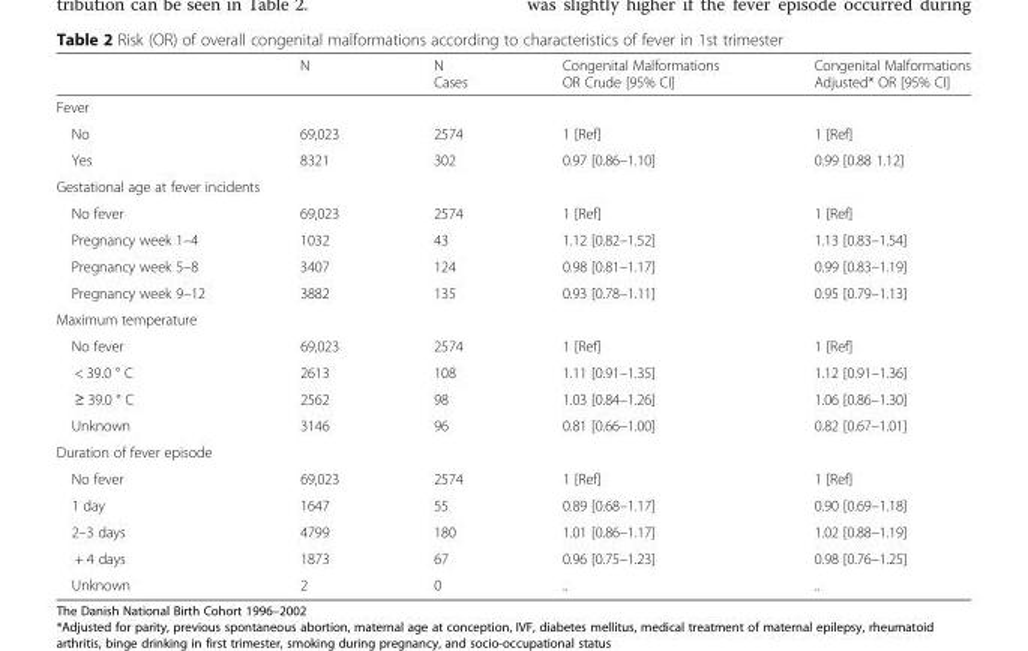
<table><thead><tr><td></td><td>N</td><td>N Cases</td><td>Congenital Malformations OR Crude [95% CI]</td><td>Congenital Malformations Adjusted* OR [95% CI]</td></tr></thead><tbody><tr><td colspan="5">Fever</td></tr><tr><td>No</td><td>69,023</td><td>2574</td><td>1 [Ref]</td><td>1 [Ref]</td></tr><tr><td>Yes</td><td>8321</td><td>302</td><td>0.97 [0.86–1.10]</td><td>0.99 [0.88 1.12]</td></tr><tr><td colspan="5">Gestational age at fever incidents</td></tr><tr><td>No fever</td><td>69,023</td><td>2574</td><td>1 [Ref]</td><td>1 [Ref]</td></tr><tr><td>Pregnancy week 1–4</td><td>1032</td><td>43</td><td>1.12 [0.82–1.52]</td><td>1.13 [0.83–1.54]</td></tr><tr><td>Pregnancy week 5–8</td><td>3407</td><td>124</td><td>0.98 [0.81–1.17]</td><td>0.99 [0.83–1.19]</td></tr><tr><td>Pregnancy week 9–12</td><td>3882</td><td>135</td><td>0.93 [0.78–1.11]</td><td>0.95 [0.79–1.13]</td></tr><tr><td colspan="5">Maximum temperature</td></tr><tr><td>No fever</td><td>69,023</td><td>2574</td><td>1 [Ref]</td><td>1 [Ref]</td></tr><tr><td>&lt; 39.0 ° C</td><td>2613</td><td>108</td><td>1.11 [0.91–1.35]</td><td>1.12 [0.91–1.36]</td></tr><tr><td>≥ 39.0 ° C</td><td>2562</td><td>98</td><td>1.03 [0.84–1.26]</td><td>1.06 [0.86–1.30]</td></tr><tr><td>Unknown</td><td>3146</td><td>96</td><td>0.81 [0.66–1.00]</td><td>0.82 [0.67–1.01]</td></tr><tr><td colspan="5">Duration of fever episode</td></tr><tr><td>No fever</td><td>69,023</td><td>2574</td><td>1 [Ref]</td><td>1 [Ref]</td></tr><tr><td>1 day</td><td>1647</td><td>55</td><td>0.89 [0.68–1.17]</td><td>0.90 [0.69–1.18]</td></tr><tr><td>2–3 days</td><td>4799</td><td>180</td><td>1.01 [0.86–1.17]</td><td>1.02 [0.88–1.19]</td></tr><tr><td>+ 4 days</td><td>1873</td><td>67</td><td>0.96 [0.75–1.23]</td><td>0.98 [0.76–1.25]</td></tr><tr><td>Unknown</td><td>2</td><td>0</td><td>..</td><td>..</td></tr></tbody></table>